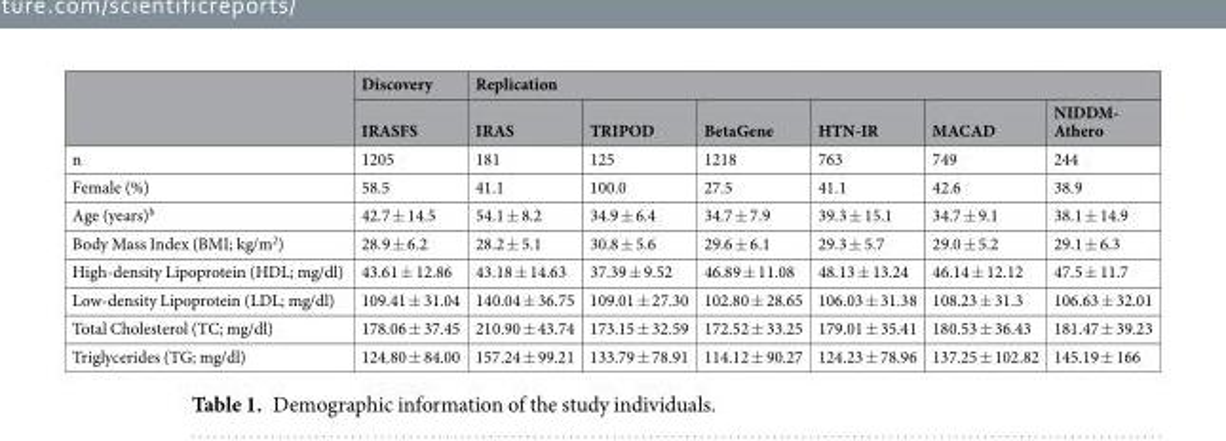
<table><thead><tr><td rowspan="2"></td><td rowspan="2">Discovery IRASFS</td><td colspan="6">Replication</td></tr><tr><td>IRAS</td><td>TRIPOD</td><td>BetaGene</td><td>HTN-IR</td><td>MACAD</td><td>NIDDM- Athero</td></tr></thead><tbody><tr><td>n</td><td>1205</td><td>181</td><td>125</td><td>1218</td><td>763</td><td>749</td><td>244</td></tr><tr><td>Female (%)</td><td>58.5</td><td>41.1</td><td>100.0</td><td>27.5</td><td>41.1</td><td>42.6</td><td>38.9</td></tr><tr><td>Age (years)<sup>b</sup></td><td>42.7 ± 14.5</td><td>54.1 ± 8.2</td><td>34.9 ± 6.4</td><td>34.7 ± 7.9</td><td>39.3 ± 15.1</td><td>34.7 ± 9.1</td><td>38.1 ± 14.9</td></tr><tr><td>Body Mass Index (BMI; kg/m<sup>2</sup>)</td><td>28.9 ± 6.2</td><td>28.2 ± 5.1</td><td>30.8 ± 5.6</td><td>29.6 ± 6.1</td><td>29.3 ± 5.7</td><td>29.0 ± 5.2</td><td>29.1 ± 6.3</td></tr><tr><td>High-density Lipoprotein (HDL; mg/dl)</td><td>43.61 ± 12.86</td><td>43.18 ± 14.63</td><td>37.39 ± 9.52</td><td>46.89 ± 11.08</td><td>48.13 ± 13.24</td><td>46.14 ± 12.12</td><td>47.5 ± 11.7</td></tr><tr><td>Low-density Lipoprotein (LDL; mg/dl)</td><td>109.41 ± 31.04</td><td>140.04 ± 36.75</td><td>109.01 ± 27.30</td><td>102.80 ± 28.65</td><td>106.03 ± 31.38</td><td>108.23 ± 31.3</td><td>106.63 ± 32.01</td></tr><tr><td>Total Cholesterol (TC; mg/dl)</td><td>178.06 ± 37.45</td><td>210.90 ± 43.74</td><td>173.15 ± 32.59</td><td>172.52 ± 33.25</td><td>179.01 ± 35.41</td><td>180.53 ± 36.43</td><td>181.47 ± 39.23</td></tr><tr><td>Triglycerides (TG; mg/dl)</td><td>124.80 ± 84.00</td><td>157.24 ± 99.21</td><td>133.79 ± 78.91</td><td>114.12 ± 90.27</td><td>124.23 ± 78.96</td><td>137.25 ± 102.82</td><td>145.19 ± 166</td></tr></tbody></table>